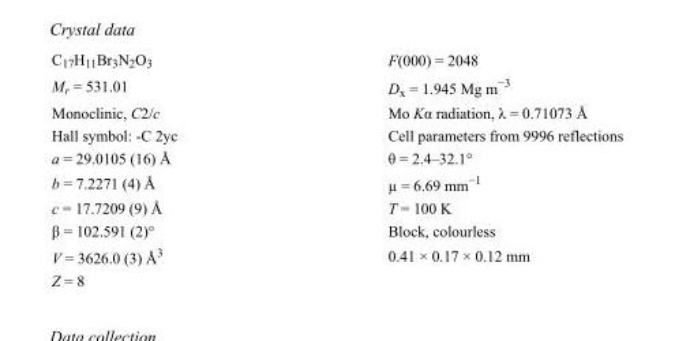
<table><tbody><tr><td>C<sub>17</sub>H<sub>11</sub>Br<sub>3</sub>N<sub>2</sub>O<sub>3</sub></td><td>F(000) = 2048</td></tr><tr><td>M<sub>r</sub> = 531.01</td><td>D<sub>x</sub> = 1.945 Mg m<sup>−3</sup></td></tr><tr><td>Monoclinic, C2/c</td><td>Mo Kα radiation, λ = 0.71073 Å</td></tr><tr><td>Hall symbol: -C 2yc</td><td>Cell parameters from 9996 reflections</td></tr><tr><td>a = 29.0105 (16) Å</td><td>θ = 2.4–32.1°</td></tr><tr><td>b = 7.2271 (4) Å</td><td>µ = 6.69 mm<sup>−1</sup></td></tr><tr><td>c = 17.7209 (9) Å</td><td>T = 100 K</td></tr><tr><td>β = 102.591 (2)°</td><td>Block, colourless</td></tr><tr><td>V = 3626.0 (3) Å<sup>3</sup></td><td>0.41 × 0.17 × 0.12 mm</td></tr><tr><td>Z = 8</td><td></td></tr></tbody></table>